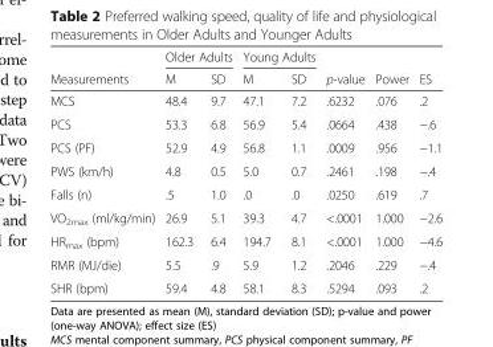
<table><thead><tr><td rowspan="2">Measurements</td><td colspan="2">Older Adults</td><td colspan="2">Young Adults</td><td rowspan="2">p-value</td><td rowspan="2">Power</td><td rowspan="2">ES</td></tr><tr><td>M</td><td>SD</td><td>M</td><td>SD</td></tr></thead><tbody><tr><td>MCS</td><td>48.4</td><td>9.7</td><td>47.1</td><td>7.2</td><td>.6232</td><td>.076</td><td>.2</td></tr><tr><td>PCS</td><td>53.3</td><td>6.8</td><td>56.9</td><td>5.4</td><td>.0664</td><td>.438</td><td>−.6</td></tr><tr><td>PCS (PF)</td><td>52.9</td><td>4.9</td><td>56.8</td><td>1.1</td><td>.0009</td><td>.956</td><td>−1.1</td></tr><tr><td>PWS (km/h)</td><td>4.8</td><td>0.5</td><td>5.0</td><td>0.7</td><td>.2461</td><td>.198</td><td>−.4</td></tr><tr><td>Falls (n)</td><td>.5</td><td>1.0</td><td>.0</td><td>.0</td><td>.0250</td><td>.619</td><td>.7</td></tr><tr><td>VO<sub>2max</sub> (ml/kg/min)</td><td>26.9</td><td>5.1</td><td>39.3</td><td>4.7</td><td>&lt;.0001</td><td>1.000</td><td>−2.6</td></tr><tr><td>HR<sub>max</sub> (bpm)</td><td>162.3</td><td>6.4</td><td>194.7</td><td>8.1</td><td>&lt;.0001</td><td>1.000</td><td>−4.6</td></tr><tr><td>RMR (MJ/die)</td><td>5.5</td><td>.9</td><td>5.9</td><td>1.2</td><td>.2046</td><td>.229</td><td>−.4</td></tr><tr><td>SHR (bpm)</td><td>59.4</td><td>4.8</td><td>58.1</td><td>8.3</td><td>.5294</td><td>.093</td><td>.2</td></tr></tbody></table>